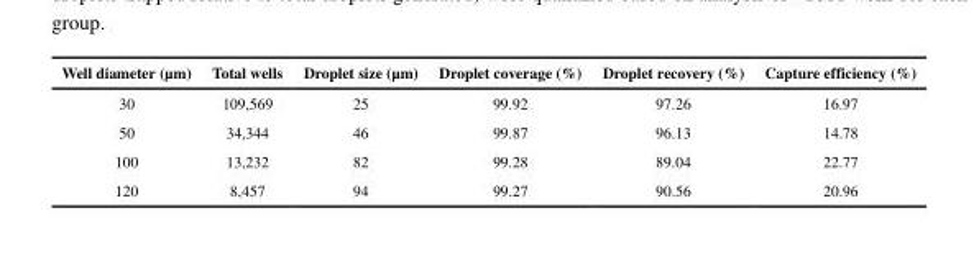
<table><thead><tr><td>Well diameter (μm)</td><td>Total wells</td><td>Droplet size (μm)</td><td>Droplet coverage (%)</td><td>Droplet recovery (%)</td><td>Capture efficiency (%)</td></tr></thead><tbody><tr><td>30</td><td>109,569</td><td>25</td><td>99.92</td><td>97.26</td><td>16.97</td></tr><tr><td>50</td><td>34,344</td><td>46</td><td>99.87</td><td>96.13</td><td>14.78</td></tr><tr><td>100</td><td>13,232</td><td>82</td><td>99.28</td><td>89.04</td><td>22.77</td></tr><tr><td>120</td><td>8,457</td><td>94</td><td>99.27</td><td>90.56</td><td>20.96</td></tr></tbody></table>